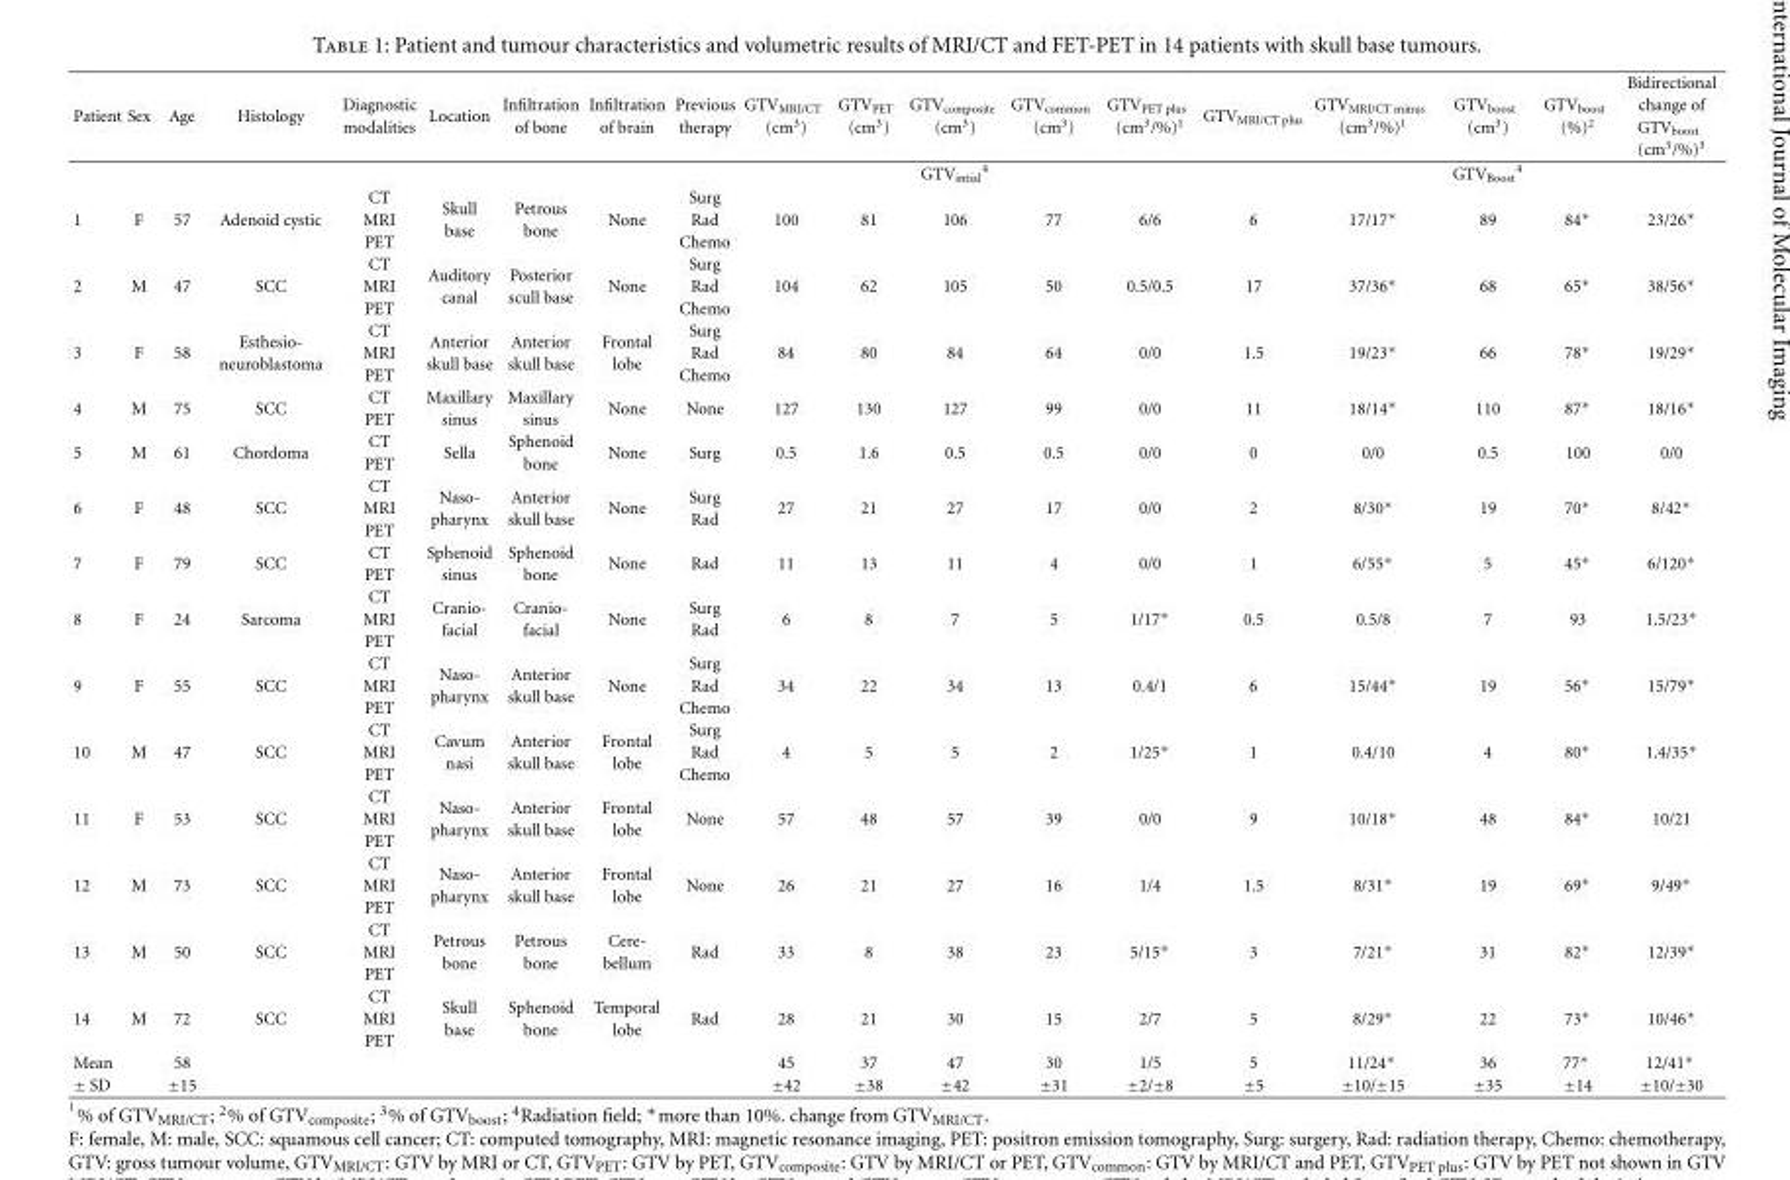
<table><thead><tr><td>Patient</td><td>Sex</td><td>Age</td><td>Histology</td><td>Diagnostic modalities</td><td>Location</td><td>Infiltration of bone</td><td>Infiltration of brain</td><td>Previous therapy</td><td>GTV<sub>MRI/CT</sub> (cm<sup>3</sup>)</td><td>GTV<sub>PET</sub> (cm<sup>3</sup>)</td><td>GTV<sub>composite</sub> (cm<sup>3</sup>)</td><td>GTV<sub>common</sub> (cm<sup>3</sup>)</td><td>GTV<sub>PET plus</sub> (cm<sup>3</sup>/%)<sup>1</sup></td><td>GTV<sub>MRI/CT plus</sub></td><td>GTV<sub>MRI/CT minus</sub> (cm<sup>3</sup>/%)<sup>1</sup></td><td>GTV<sub>boost</sub> (cm<sup>3</sup>)</td><td>GTV<sub>boost</sub> (%)<sup>2</sup></td><td>Bidirectional change of GTV<sub>boost</sub> (cm<sup>3</sup>/%)<sup>3</sup></td></tr></thead><tbody><tr><td></td><td></td><td></td><td></td><td></td><td></td><td></td><td></td><td></td><td></td><td></td><td>GTV<sub>intial</sub><sup>4</sup></td><td></td><td></td><td></td><td></td><td>GTV<sub>Boost</sub><sup>4</sup></td><td></td><td></td></tr><tr><td>1</td><td>F</td><td>57</td><td>Adenoid cystic</td><td>CT MRI PET</td><td>Skull base</td><td>Petrous bone</td><td>None</td><td>Surg Rad Chemo</td><td>100</td><td>81</td><td>106</td><td>77</td><td>6/6</td><td>6</td><td>17/17∗</td><td>89</td><td>84∗</td><td>23/26∗</td></tr><tr><td>2</td><td>M</td><td>47</td><td>SCC</td><td>CT MRI PET</td><td>Auditory canal</td><td>Posterior scull base</td><td>None</td><td>Surg Rad Chemo</td><td>104</td><td>62</td><td>105</td><td>50</td><td>0.5/0.5</td><td>17</td><td>37/36∗</td><td>68</td><td>65∗</td><td>38/56∗</td></tr><tr><td>3</td><td>F</td><td>58</td><td>Esthesio- neuroblastoma</td><td>CT MRI PET</td><td>Anterior skull base</td><td>Anterior skull base</td><td>Frontal lobe</td><td>Surg Rad Chemo</td><td>84</td><td>80</td><td>84</td><td>64</td><td>0/0</td><td>1.5</td><td>19/23∗</td><td>66</td><td>78∗</td><td>19/29∗</td></tr><tr><td>4</td><td>M</td><td>75</td><td>SCC</td><td>CT PET</td><td>Maxillary sinus</td><td>Maxillary sinus</td><td>None</td><td>None</td><td>127</td><td>130</td><td>127</td><td>99</td><td>0/0</td><td>11</td><td>18/14∗</td><td>110</td><td>87∗</td><td>18/16∗</td></tr><tr><td>5</td><td>M</td><td>61</td><td>Chordoma</td><td>CT PET</td><td>Sella</td><td>Sphenoid bone</td><td>None</td><td>Surg</td><td>0.5</td><td>1.6</td><td>0.5</td><td>0.5</td><td>0/0</td><td>0</td><td>0/0</td><td>0.5</td><td>100</td><td>0/0</td></tr><tr><td>6</td><td>F</td><td>48</td><td>SCC</td><td>CT MRI PET</td><td>Naso- pharynx</td><td>Anterior skull base</td><td>None</td><td>Surg Rad</td><td>27</td><td>21</td><td>27</td><td>17</td><td>0/0</td><td>2</td><td>8/30∗</td><td>19</td><td>70∗</td><td>8/42∗</td></tr><tr><td>7</td><td>F</td><td>79</td><td>SCC</td><td>CT PET</td><td>Sphenoid sinus</td><td>Sphenoid bone</td><td>None</td><td>Rad</td><td>11</td><td>13</td><td>11</td><td>4</td><td>0/0</td><td>1</td><td>6/55∗</td><td>5</td><td>45∗</td><td>6/120∗</td></tr><tr><td>8</td><td>F</td><td>24</td><td>Sarcoma</td><td>CT MRI PET</td><td>Cranio- facial</td><td>Cranio- facial</td><td>None</td><td>Surg Rad</td><td>6</td><td>8</td><td>7</td><td>5</td><td>1/17∗</td><td>0.5</td><td>0.5/8</td><td>7</td><td>93</td><td>1.5/23∗</td></tr><tr><td>9</td><td>F</td><td>55</td><td>SCC</td><td>CT MRI PET</td><td>Naso- pharynx</td><td>Anterior skull base</td><td>None</td><td>Surg Rad Chemo</td><td>34</td><td>22</td><td>34</td><td>13</td><td>0.4/1</td><td>6</td><td>15/44∗</td><td>19</td><td>56∗</td><td>15/79∗</td></tr><tr><td>10</td><td>M</td><td>47</td><td>SCC</td><td>CT MRI PET</td><td>Cavum nasi</td><td>Anterior skull base</td><td>Frontal lobe</td><td>Surg Rad Chemo</td><td>4</td><td>5</td><td>5</td><td>2</td><td>1/25∗</td><td>1</td><td>0.4/10</td><td>4</td><td>80∗</td><td>1.4/35∗</td></tr><tr><td>11</td><td>F</td><td>53</td><td>SCC</td><td>CT MRI PET</td><td>Naso- pharynx</td><td>Anterior skull base</td><td>Frontal lobe</td><td>None</td><td>57</td><td>48</td><td>57</td><td>39</td><td>0/0</td><td>9</td><td>10/18∗</td><td>48</td><td>84∗</td><td>10/21</td></tr><tr><td>12</td><td>M</td><td>73</td><td>SCC</td><td>CT MRI PET</td><td>Naso- pharynx</td><td>Anterior skull base</td><td>Frontal lobe</td><td>None</td><td>26</td><td>21</td><td>27</td><td>16</td><td>1/4</td><td>1.5</td><td>8/31∗</td><td>19</td><td>69∗</td><td>9/49∗</td></tr><tr><td>13</td><td>M</td><td>50</td><td>SCC</td><td>CT MRI PET</td><td>Petrous bone</td><td>Petrous bone</td><td>Cere- bellum</td><td>Rad</td><td>33</td><td>8</td><td>38</td><td>23</td><td>5/15∗</td><td>3</td><td>7/21∗</td><td>31</td><td>82∗</td><td>12/39∗</td></tr><tr><td>14</td><td>M</td><td>72</td><td>SCC</td><td>CT MRI PET</td><td>Skull base</td><td>Sphenoid bone</td><td>Temporal lobe</td><td>Rad</td><td>28</td><td>21</td><td>30</td><td>15</td><td>2/7</td><td>5</td><td>8/29∗</td><td>22</td><td>73∗</td><td>10/46∗</td></tr><tr><td>Mean ± SD</td><td></td><td>58 ±15</td><td></td><td></td><td></td><td></td><td></td><td></td><td>45 ±42</td><td>37 ±38</td><td>47 ±42</td><td>30 ±31</td><td>1/5 ±2/±8</td><td>5 ±5</td><td>11/24∗ ±10/±15</td><td>36 ±35</td><td>77∗ ±14</td><td>12/41∗ ±10/±30</td></tr></tbody></table>